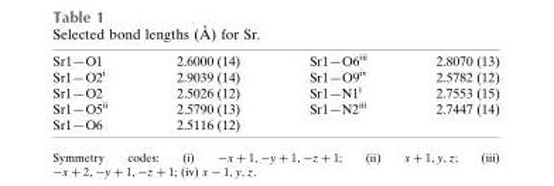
<table><tbody><tr><td>Sr1—O1</td><td>2.6000 (14)</td><td>Sr1—O6<sup>iii</sup></td><td>2.8070 (13)</td></tr><tr><td>Sr1—O2<sup>i</sup></td><td>2.9039 (14)</td><td>Sr1—O9<sup>iv</sup></td><td>2.5782 (12)</td></tr><tr><td>Sr1—O2</td><td>2.5026 (12)</td><td>Sr1—N1<sup>i</sup></td><td>2.7553 (15)</td></tr><tr><td>Sr1—O5<sup>ii</sup></td><td>2.5790 (13)</td><td>Sr1—N2<sup>iii</sup></td><td>2.7447 (14)</td></tr><tr><td>Sr1—O6</td><td>2.5116 (12)</td><td></td><td></td></tr></tbody></table>